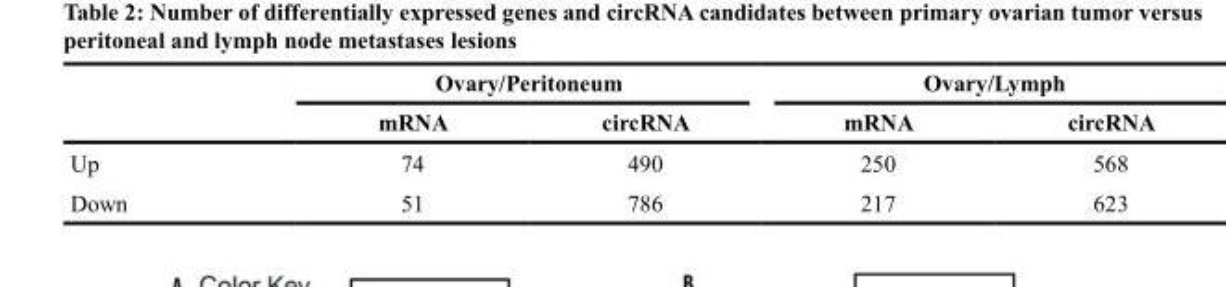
<table><thead><tr><td rowspan="2"></td><td colspan="2">Ovary/Peritoneum</td><td colspan="2">Ovary/Lymph</td></tr><tr><td>mRNA</td><td>circRNA</td><td>mRNA</td><td>circRNA</td></tr></thead><tbody><tr><td>Up</td><td>74</td><td>490</td><td>250</td><td>568</td></tr><tr><td>Down</td><td>51</td><td>786</td><td>217</td><td>623</td></tr></tbody></table>